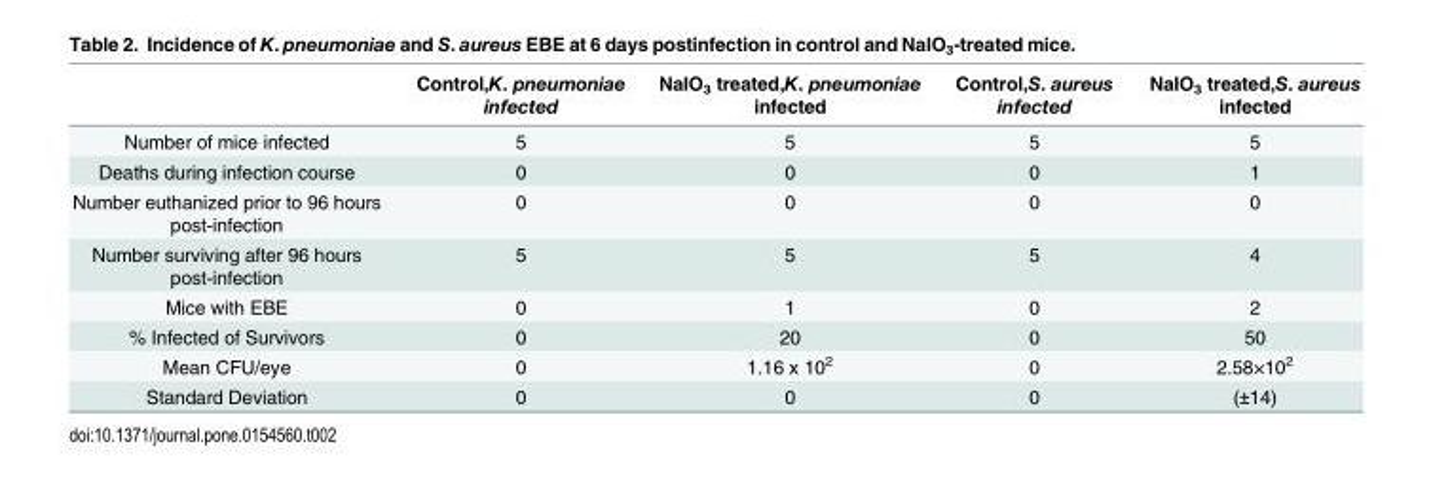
<table><thead><tr><td></td><td>Control,K. pneumoniae infected</td><td>NaIO<sub>3</sub> treated,K. pneumoniae infected</td><td>Control,S. aureus infected</td><td>NaIO<sub>3</sub> treated,S. aureus infected</td></tr></thead><tbody><tr><td>Number of mice infected</td><td>5</td><td>5</td><td>5</td><td>5</td></tr><tr><td>Deaths during infection course</td><td>0</td><td>0</td><td>0</td><td>1</td></tr><tr><td>Number euthanized prior to 96 hours post-infection</td><td>0</td><td>0</td><td>0</td><td>0</td></tr><tr><td>Number surviving after 96 hours post-infection</td><td>5</td><td>5</td><td>5</td><td>4</td></tr><tr><td>Mice with EBE</td><td>0</td><td>1</td><td>0</td><td>2</td></tr><tr><td>% Infected of Survivors</td><td>0</td><td>20</td><td>0</td><td>50</td></tr><tr><td>Mean CFU/eye</td><td>0</td><td>1.16 x 10<sup>2</sup></td><td>0</td><td>2.58×10<sup>2</sup></td></tr><tr><td>Standard Deviation</td><td>0</td><td>0</td><td>0</td><td>(±14)</td></tr></tbody></table>